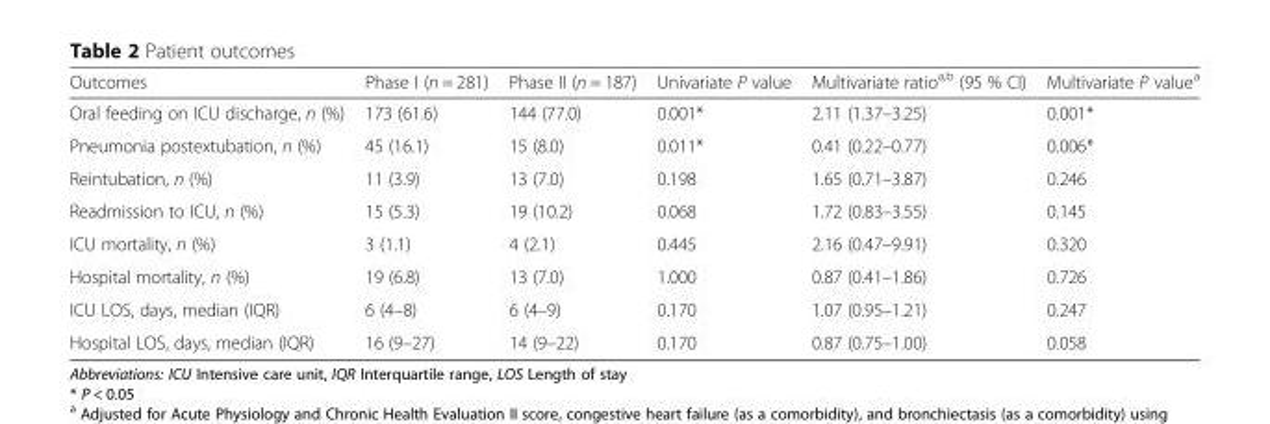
<table><thead><tr><td>Outcomes</td><td>Phase I (n = 281)</td><td>Phase II (n = 187)</td><td>Univariate P value</td><td>Multivariate ratio<sup>a,b</sup> (95 % CI)</td><td>Multivariate P value<sup>a</sup></td></tr></thead><tbody><tr><td>Oral feeding on ICU discharge, n (%)</td><td>173 (61.6)</td><td>144 (77.0)</td><td>0.001*</td><td>2.11 (1.37–3.25)</td><td>0.001*</td></tr><tr><td>Pneumonia postextubation, n (%)</td><td>45 (16.1)</td><td>15 (8.0)</td><td>0.011*</td><td>0.41 (0.22–0.77)</td><td>0.006*</td></tr><tr><td>Reintubation, n (%)</td><td>11 (3.9)</td><td>13 (7.0)</td><td>0.198</td><td>1.65 (0.71–3.87)</td><td>0.246</td></tr><tr><td>Readmission to ICU, n (%)</td><td>15 (5.3)</td><td>19 (10.2)</td><td>0.068</td><td>1.72 (0.83–3.55)</td><td>0.145</td></tr><tr><td>ICU mortality, n (%)</td><td>3 (1.1)</td><td>4 (2.1)</td><td>0.445</td><td>2.16 (0.47–9.91)</td><td>0.320</td></tr><tr><td>Hospital mortality, n (%)</td><td>19 (6.8)</td><td>13 (7.0)</td><td>1.000</td><td>0.87 (0.41–1.86)</td><td>0.726</td></tr><tr><td>ICU LOS, days, median (IQR)</td><td>6 (4–8)</td><td>6 (4–9)</td><td>0.170</td><td>1.07 (0.95–1.21)</td><td>0.247</td></tr><tr><td>Hospital LOS, days, median (IQR)</td><td>16 (9–27)</td><td>14 (9–22)</td><td>0.170</td><td>0.87 (0.75–1.00)</td><td>0.058</td></tr></tbody></table>